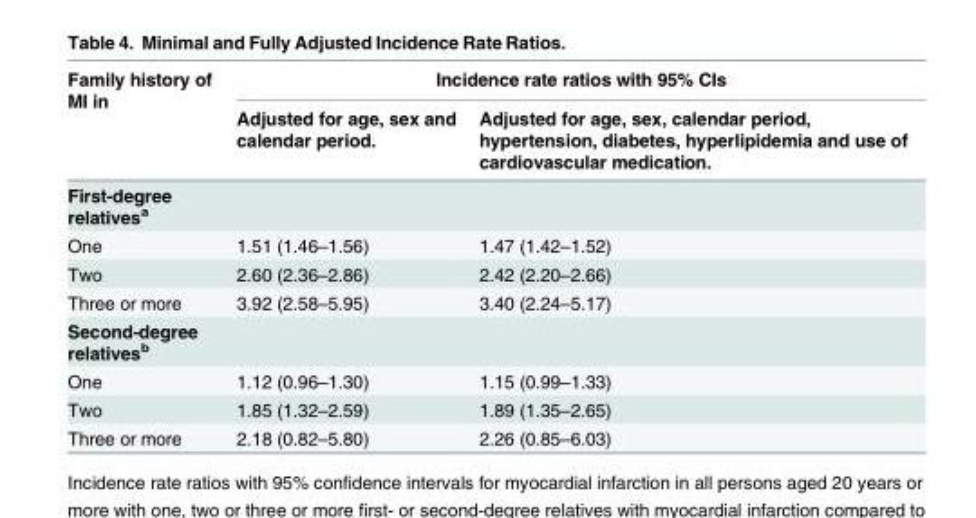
<table><thead><tr><td rowspan="2">Family history of MI in</td><td colspan="2">Incidence rate ratios with 95% CIs</td></tr><tr><td>Adjusted for age, sex and calendar period.</td><td>Adjusted for age, sex, calendar period, hypertension, diabetes, hyperlipidemia and use of cardiovascular medication.</td></tr></thead><tbody><tr><td colspan="3">First-degree relatives<sup>a</sup></td></tr><tr><td>One</td><td>1.51 (1.46–1.56)</td><td>1.47 (1.42–1.52)</td></tr><tr><td>Two</td><td>2.60 (2.36–2.86)</td><td>2.42 (2.20–2.66)</td></tr><tr><td>Three or more</td><td>3.92 (2.58–5.95)</td><td>3.40 (2.24–5.17)</td></tr><tr><td colspan="3">Second-degree relatives<sup>b</sup></td></tr><tr><td>One</td><td>1.12 (0.96–1.30)</td><td>1.15 (0.99–1.33)</td></tr><tr><td>Two</td><td>1.85 (1.32–2.59)</td><td>1.89 (1.35–2.65)</td></tr><tr><td>Three or more</td><td>2.18 (0.82–5.80)</td><td>2.26 (0.85–6.03)</td></tr></tbody></table>